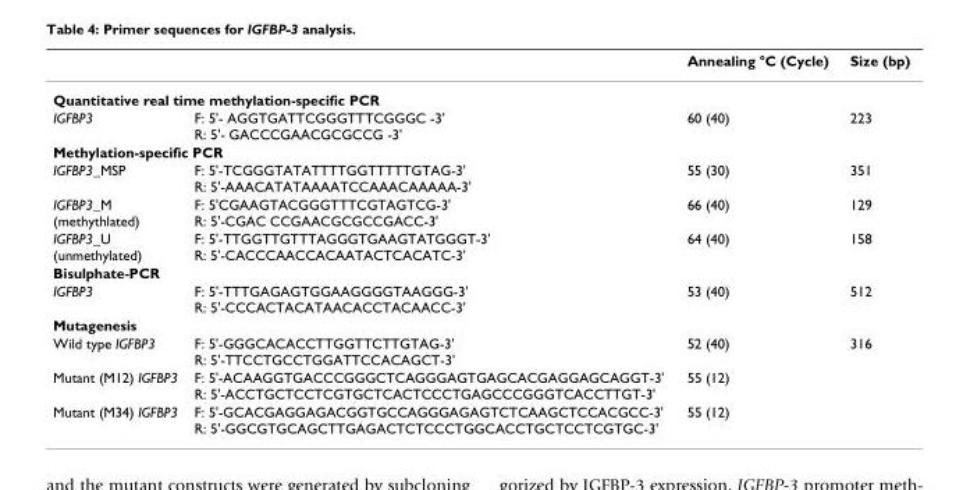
<table><thead><tr><td></td><td></td><td>Annealing °C (Cycle)</td><td>Size (bp)</td></tr></thead><tbody><tr><td colspan="4">Quantitative real time methylation-specific PCR</td></tr><tr><td>IGFBP3</td><td>F: 5&#x27;- AGGTGATTCGGGTTTCGGGC -3&#x27; R: 5&#x27;- GACCCGAACGCGCCG -3&#x27;</td><td>60 (40)</td><td>223</td></tr><tr><td colspan="4">Methylation-specific PCR</td></tr><tr><td>IGFBP3_MSP</td><td>F: 5&#x27;-TCGGGTATATTTTGGTTTTTGTAG-3&#x27; R: 5&#x27;-AAACATATAAAATCCAAACAAAAA-3&#x27;</td><td>55 (30)</td><td>351</td></tr><tr><td>IGFBP3_M (methythlated)</td><td>F: 5&#x27;CGAAGTACGGGTTTCGTAGTCG-3&#x27; R: 5&#x27;-CGAC CCGAACGCGCCGACC-3&#x27;</td><td>66 (40)</td><td>129</td></tr><tr><td>IGFBP3_U (unmethylated)</td><td>F: 5&#x27;-TTGGTTGTTTAGGGTGAAGTATGGGT-3&#x27; R: 5&#x27;-CACCCAACCACAATACTCACATC-3&#x27;</td><td>64 (40)</td><td>158</td></tr><tr><td colspan="4">Bisulphate-PCR</td></tr><tr><td>IGFBP3</td><td>F: 5&#x27;-TTTGAGAGTGGAAGGGGTAAGGG-3&#x27; R: 5&#x27;-CCCACTACATAACACCTACAACC-3&#x27;</td><td>53 (40)</td><td>512</td></tr><tr><td colspan="4">Mutagenesis</td></tr><tr><td>Wild type IGFBP3</td><td>F: 5&#x27;-GGGCACACCTTGGTTCTTGTAG-3&#x27; R: 5&#x27;-TTCCTGCCTGGATTCCACAGCT-3&#x27;</td><td>52 (40)</td><td>316</td></tr><tr><td>Mutant (M12) IGFBP3</td><td>F: 5&#x27;-ACAAGGTGACCCGGGCTCAGGGAGTGAGCACGAGGAGCAGGT-3&#x27; R: 5&#x27;-ACCTGCTCCTCGTGCTCACTCCCTGAGCCCGGGTCACCTTGT-3&#x27;</td><td>55 (12)</td><td></td></tr><tr><td>Mutant (M34) IGFBP3</td><td>F: 5&#x27;-GCACGAGGAGACGGTGCCAGGGAGAGTCTCAAGCTCCACGCC-3&#x27; R: 5&#x27;-GGCGTGCAGCTTGAGACTCTCCCTGGCACCTGCTCCTCGTGC-3&#x27;</td><td>55 (12)</td><td></td></tr></tbody></table>